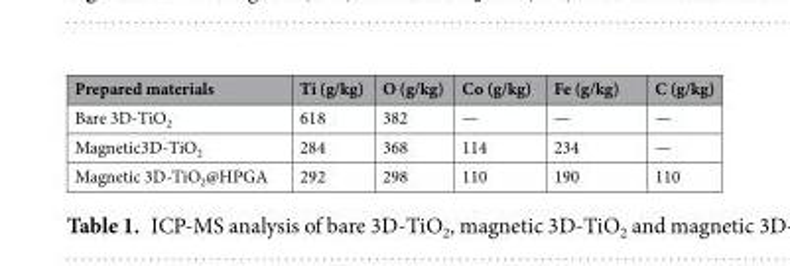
<table><thead><tr><td>Prepared materials</td><td>Ti (g/kg)</td><td>O (g/kg)</td><td>Co (g/kg)</td><td>Fe (g/kg)</td><td>C (g/kg)</td></tr></thead><tbody><tr><td>Bare 3D-TiO<sub>2</sub></td><td>618</td><td>382</td><td>—</td><td>—</td><td>—</td></tr><tr><td>Magnetic3D-TiO<sub>2</sub></td><td>284</td><td>368</td><td>114</td><td>234</td><td>—</td></tr><tr><td>Magnetic 3D-TiO<sub>2</sub>@HPGA</td><td>292</td><td>298</td><td>110</td><td>190</td><td>110</td></tr></tbody></table>